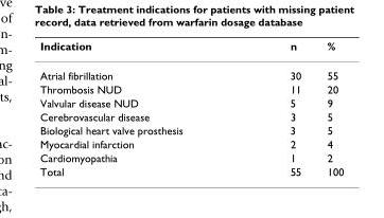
<table><thead><tr><td>Indication</td><td>n</td><td>%</td></tr></thead><tbody><tr><td>Atrial fibrillation</td><td>30</td><td>55</td></tr><tr><td>Thrombosis NUD</td><td>11</td><td>20</td></tr><tr><td>Valvular disease NUD</td><td>5</td><td>9</td></tr><tr><td>Cerebrovascular disease</td><td>3</td><td>5</td></tr><tr><td>Biological heart valve prosthesis</td><td>3</td><td>5</td></tr><tr><td>Myocardial infarction</td><td>2</td><td>4</td></tr><tr><td>Cardiomyopathia</td><td>1</td><td>2</td></tr><tr><td>Total</td><td>55</td><td>100</td></tr></tbody></table>